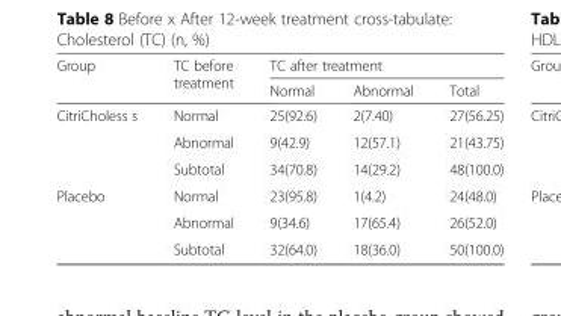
<table><thead><tr><td rowspan="2">Group</td><td rowspan="2">TC before treatment</td><td colspan="3">TC after treatment</td></tr><tr><td>Normal</td><td>Abnormal</td><td>Total</td></tr></thead><tbody><tr><td rowspan="3">CitriCholess s</td><td>Normal</td><td>25(92.6)</td><td>2(7.40)</td><td>27(56.25)</td></tr><tr><td>Abnormal</td><td>9(42.9)</td><td>12(57.1)</td><td>21(43.75)</td></tr><tr><td>Subtotal</td><td>34(70.8)</td><td>14(29.2)</td><td>48(100.0)</td></tr><tr><td rowspan="3">Placebo</td><td>Normal</td><td>23(95.8)</td><td>1(4.2)</td><td>24(48.0)</td></tr><tr><td>Abnormal</td><td>9(34.6)</td><td>17(65.4)</td><td>26(52.0)</td></tr><tr><td>Subtotal</td><td>32(64.0)</td><td>18(36.0)</td><td>50(100.0)</td></tr></tbody></table>